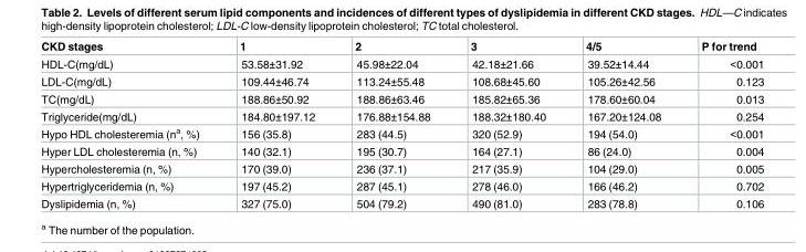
<table><thead><tr><td>CKD stages</td><td>1</td><td>2</td><td>3</td><td>4/5</td><td>P for trend</td></tr></thead><tbody><tr><td>HDL-C(mg/dL)</td><td>53.58±31.92</td><td>45.98±22.04</td><td>42.18±21.66</td><td>39.52±14.44</td><td>&lt;0.001</td></tr><tr><td>LDL-C(mg/dL)</td><td>109.44±46.74</td><td>113.24±55.48</td><td>108.68±45.60</td><td>105.26±42.56</td><td>0.123</td></tr><tr><td>TC(mg/dL)</td><td>188.86±50.92</td><td>188.86±63.46</td><td>185.82±65.36</td><td>178.60±60.04</td><td>0.013</td></tr><tr><td>Triglyceride(mg/dL)</td><td>184.80±197.12</td><td>176.88±154.88</td><td>188.32±180.40</td><td>167.20±124.08</td><td>0.254</td></tr><tr><td>Hypo HDL cholesteremia (n<sup>a</sup>, %)</td><td>156 (35.8)</td><td>283 (44.5)</td><td>320 (52.9)</td><td>194 (54.0)</td><td>&lt;0.001</td></tr><tr><td>Hyper LDL cholesteremia (n, %)</td><td>140 (32.1)</td><td>195 (30.7)</td><td>164 (27.1)</td><td>86 (24.0)</td><td>0.004</td></tr><tr><td>Hypercholesteremia (n, %)</td><td>170 (39.0)</td><td>236 (37.1)</td><td>217 (35.9)</td><td>104 (29.0)</td><td>0.005</td></tr><tr><td>Hypertriglyceridemia (n, %)</td><td>197 (45.2)</td><td>287 (45.1)</td><td>278 (46.0)</td><td>166 (46.2)</td><td>0.702</td></tr><tr><td>Dyslipidemia (n, %)</td><td>327 (75.0)</td><td>504 (79.2)</td><td>490 (81.0)</td><td>283 (78.8)</td><td>0.106</td></tr></tbody></table>